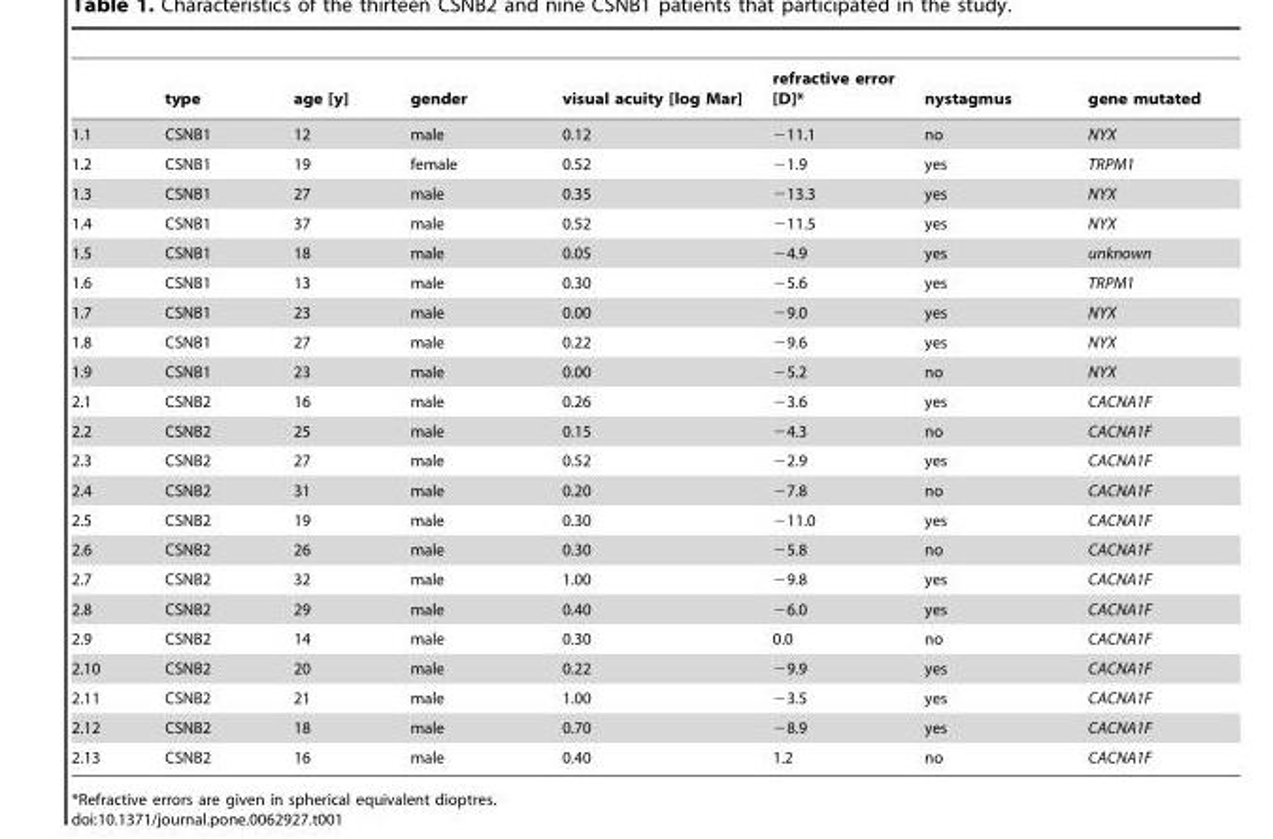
<table><thead><tr><td></td><td>type</td><td>age [y]</td><td>gender</td><td>visual acuity [log Mar]</td><td>refractive error [D]*</td><td>nystagmus</td><td>gene mutated</td></tr></thead><tbody><tr><td>1.1</td><td>CSNB1</td><td>12</td><td>male</td><td>0.12</td><td>−11.1</td><td>no</td><td>NYX</td></tr><tr><td>1.2</td><td>CSNB1</td><td>19</td><td>female</td><td>0.52</td><td>−1.9</td><td>yes</td><td>TRPM1</td></tr><tr><td>1.3</td><td>CSNB1</td><td>27</td><td>male</td><td>0.35</td><td>−13.3</td><td>yes</td><td>NYX</td></tr><tr><td>1.4</td><td>CSNB1</td><td>37</td><td>male</td><td>0.52</td><td>−11.5</td><td>yes</td><td>NYX</td></tr><tr><td>1.5</td><td>CSNB1</td><td>18</td><td>male</td><td>0.05</td><td>−4.9</td><td>yes</td><td>unknown</td></tr><tr><td>1.6</td><td>CSNB1</td><td>13</td><td>male</td><td>0.30</td><td>−5.6</td><td>yes</td><td>TRPM1</td></tr><tr><td>1.7</td><td>CSNB1</td><td>23</td><td>male</td><td>0.00</td><td>−9.0</td><td>yes</td><td>NYX</td></tr><tr><td>1.8</td><td>CSNB1</td><td>27</td><td>male</td><td>0.22</td><td>−9.6</td><td>yes</td><td>NYX</td></tr><tr><td>1.9</td><td>CSNB1</td><td>23</td><td>male</td><td>0.00</td><td>−5.2</td><td>no</td><td>NYX</td></tr><tr><td>2.1</td><td>CSNB2</td><td>16</td><td>male</td><td>0.26</td><td>−3.6</td><td>yes</td><td>CACNA1F</td></tr><tr><td>2.2</td><td>CSNB2</td><td>25</td><td>male</td><td>0.15</td><td>−4.3</td><td>no</td><td>CACNA1F</td></tr><tr><td>2.3</td><td>CSNB2</td><td>27</td><td>male</td><td>0.52</td><td>−2.9</td><td>yes</td><td>CACNA1F</td></tr><tr><td>2.4</td><td>CSNB2</td><td>31</td><td>male</td><td>0.20</td><td>−7.8</td><td>no</td><td>CACNA1F</td></tr><tr><td>2.5</td><td>CSNB2</td><td>19</td><td>male</td><td>0.30</td><td>−11.0</td><td>yes</td><td>CACNA1F</td></tr><tr><td>2.6</td><td>CSNB2</td><td>26</td><td>male</td><td>0.30</td><td>−5.8</td><td>no</td><td>CACNA1F</td></tr><tr><td>2.7</td><td>CSNB2</td><td>32</td><td>male</td><td>1.00</td><td>−9.8</td><td>yes</td><td>CACNA1F</td></tr><tr><td>2.8</td><td>CSNB2</td><td>29</td><td>male</td><td>0.40</td><td>−6.0</td><td>yes</td><td>CACNA1F</td></tr><tr><td>2.9</td><td>CSNB2</td><td>14</td><td>male</td><td>0.30</td><td>0.0</td><td>no</td><td>CACNA1F</td></tr><tr><td>2.10</td><td>CSNB2</td><td>20</td><td>male</td><td>0.22</td><td>−9.9</td><td>yes</td><td>CACNA1F</td></tr><tr><td>2.11</td><td>CSNB2</td><td>21</td><td>male</td><td>1.00</td><td>−3.5</td><td>yes</td><td>CACNA1F</td></tr><tr><td>2.12</td><td>CSNB2</td><td>18</td><td>male</td><td>0.70</td><td>−8.9</td><td>yes</td><td>CACNA1F</td></tr><tr><td>2.13</td><td>CSNB2</td><td>16</td><td>male</td><td>0.40</td><td>1.2</td><td>no</td><td>CACNA1F</td></tr></tbody></table>